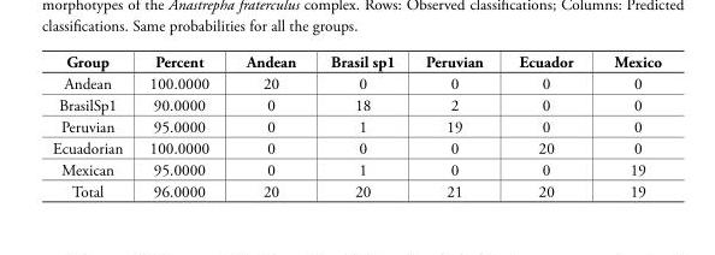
<table><thead><tr><td>Group</td><td>Percent</td><td>Andean</td><td>Brasil sp1</td><td>Peruvian</td><td>Ecuador</td><td>Mexico</td></tr></thead><tbody><tr><td>Andean</td><td>100.0000</td><td>20</td><td>0</td><td>0</td><td>0</td><td>0</td></tr><tr><td>BrasilSp1</td><td>90.0000</td><td>0</td><td>18</td><td>2</td><td>0</td><td>0</td></tr><tr><td>Peruvian</td><td>95.0000</td><td>0</td><td>1</td><td>19</td><td>0</td><td>0</td></tr><tr><td>Ecuadorian</td><td>100.0000</td><td>0</td><td>0</td><td>0</td><td>20</td><td>0</td></tr><tr><td>Mexican</td><td>95.0000</td><td>0</td><td>1</td><td>0</td><td>0</td><td>19</td></tr><tr><td>Total</td><td>96.0000</td><td>20</td><td>20</td><td>21</td><td>20</td><td>19</td></tr></tbody></table>